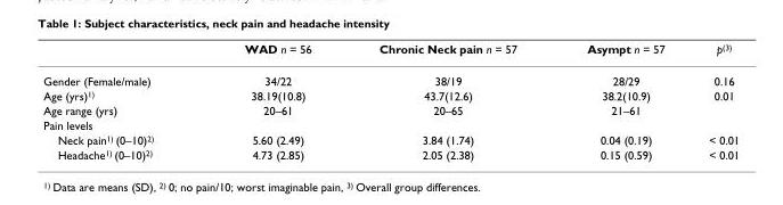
<table><thead><tr><td></td><td>WAD n = 56</td><td>Chronic Neck pain n = 57</td><td>Asympt n = 57</td><td>p<sup>(3)</sup></td></tr></thead><tbody><tr><td>Gender (Female/male)</td><td>34/22</td><td>38/19</td><td>28/29</td><td>0.16</td></tr><tr><td>Age (yrs)<sup>1)</sup></td><td>38.19(10.8)</td><td>43.7(12.6)</td><td>38.2(10.9)</td><td>0.01</td></tr><tr><td>Age range (yrs)</td><td>20–61</td><td>20–65</td><td>21–61</td><td></td></tr><tr><td colspan="5">Pain levels</td></tr><tr><td>Neck pain<sup>1)</sup> (0–10)<sup>2)</sup></td><td>5.60 (2.49)</td><td>3.84 (1.74)</td><td>0.04 (0.19)</td><td>&lt; 0.01</td></tr><tr><td>Headache<sup>1)</sup> (0–10)<sup>2)</sup></td><td>4.73 (2.85)</td><td>2.05 (2.38)</td><td>0.15 (0.59)</td><td>&lt; 0.01</td></tr></tbody></table>